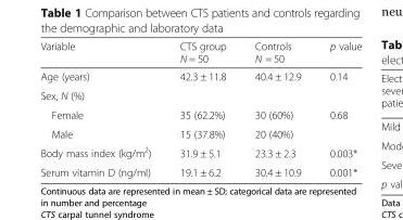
<table><thead><tr><td>Variable</td><td>CTS group N = 50</td><td>Controls N = 50</td><td>p value</td></tr></thead><tbody><tr><td>Age (years)</td><td>42.3 ± 11.8</td><td>40.4 ± 12.9</td><td>0.14</td></tr><tr><td colspan="4">Sex, N (%)</td></tr><tr><td>Female</td><td>35 (62.2%)</td><td>30 (60%)</td><td rowspan="2">0.68</td></tr><tr><td>Male</td><td>15 (37.8%)</td><td>20 (40%)</td></tr><tr><td>Body mass index (kg/m<sup>2</sup>)</td><td>31.9 ± 5.1</td><td>23.3 ± 2.3</td><td>0.003*</td></tr><tr><td>Serum vitamin D (ng/ml)</td><td>19.1 ± 6.2</td><td>30.4 ± 10.9</td><td>0.001*</td></tr></tbody></table>